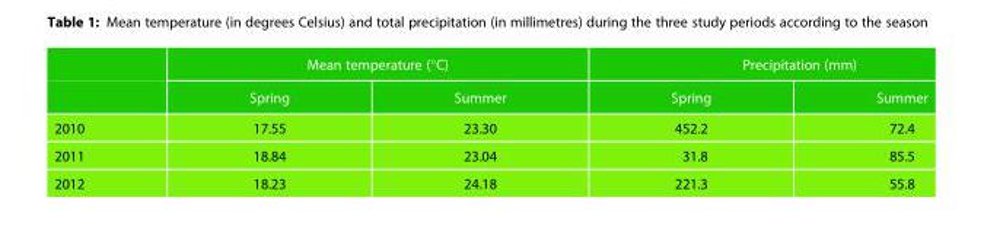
<table><thead><tr><td rowspan="2"></td><td colspan="2">Mean temperature (°C)</td><td colspan="2">Precipitation (mm)</td></tr><tr><td>Spring</td><td>Summer</td><td>Spring</td><td>Summer</td></tr></thead><tbody><tr><td>2010</td><td>17.55</td><td>23.30</td><td>452.2</td><td>72.4</td></tr><tr><td>2011</td><td>18.84</td><td>23.04</td><td>31.8</td><td>85.5</td></tr><tr><td>2012</td><td>18.23</td><td>24.18</td><td>221.3</td><td>55.8</td></tr></tbody></table>